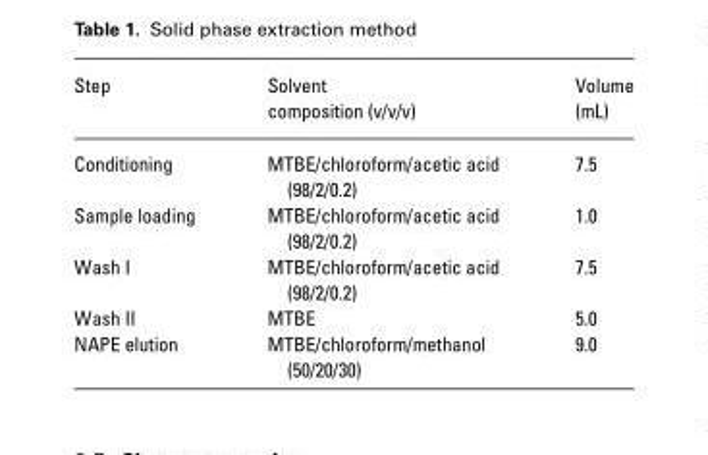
<table><thead><tr><td rowspan="2">Step</td><td rowspan="2">Solvent composition (v/v/v)</td><td rowspan="2">Volume (mL)</td></tr><tr></tr></thead><tbody><tr><td>Conditioning</td><td>MTBE/chloroform/acetic acid (98/2/0.2)</td><td>7.5</td></tr><tr><td>Sample loading</td><td>MTBE/chloroform/acetic acid (98/2/0.2)</td><td>1.0</td></tr><tr><td>Wash I</td><td>MTBE/chloroform/acetic acid (98/2/0.2)</td><td>7.5</td></tr><tr><td>Wash II</td><td>MTBE</td><td>5.0</td></tr><tr><td>NAPE elution</td><td>MTBE/chloroform/methanol (50/20/30)</td><td>9.0</td></tr></tbody></table>